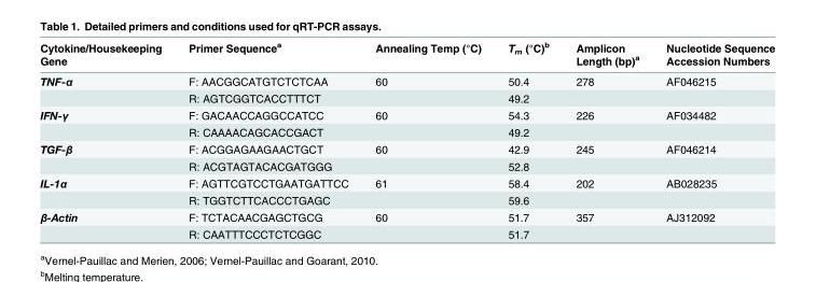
<table><thead><tr><td>Cytokine/Housekeeping Gene</td><td>Primer Sequence<sup>a</sup></td><td>Annealing Temp (°C)</td><td>T<sub>m</sub> (°C)<sup>b</sup></td><td>Amplicon Length (bp)<sup>a</sup></td><td>Nucleotide Sequence Accession Numbers</td></tr></thead><tbody><tr><td rowspan="2">TNF-α</td><td>F: AACGGCATGTCTCTCAA</td><td>60</td><td>50.4</td><td>278</td><td>AF046215</td></tr><tr><td>R: AGTCGGTCACCTTTCT</td><td></td><td>49.2</td><td></td><td></td></tr><tr><td rowspan="2">IFN-γ</td><td>F: GACAACCAGGCCATCC</td><td>60</td><td>54.3</td><td>226</td><td>AF034482</td></tr><tr><td>R: CAAAACAGCACCGACT</td><td></td><td>49.2</td><td></td><td></td></tr><tr><td rowspan="2">TGF-β</td><td>F: ACGGAGAAGAACTGCT</td><td>60</td><td>42.9</td><td>245</td><td>AF046214</td></tr><tr><td>R: ACGTAGTACACGATGGG</td><td></td><td>52.8</td><td></td><td></td></tr><tr><td rowspan="2">IL-1α</td><td>F: AGTTCGTCCTGAATGATTCC</td><td>61</td><td>58.4</td><td>202</td><td>AB028235</td></tr><tr><td>R: TGGTCTTCACCCTGAGC</td><td></td><td>59.6</td><td></td><td></td></tr><tr><td rowspan="2">β-Actin</td><td>F: TCTACAACGAGCTGCG</td><td>60</td><td>51.7</td><td>357</td><td>AJ312092</td></tr><tr><td>R: CAATTTCCCTCTCGGC</td><td></td><td>51.7</td><td></td><td></td></tr></tbody></table>